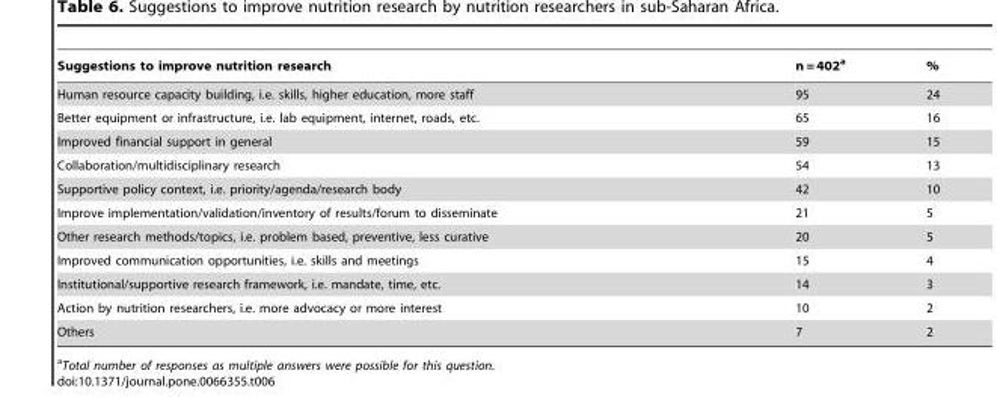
<table><thead><tr><td>Suggestions to improve nutrition research</td><td>n = 402<sup>a</sup></td><td>%</td></tr></thead><tbody><tr><td>Human resource capacity building, i.e. skills, higher education, more staff</td><td>95</td><td>24</td></tr><tr><td>Better equipment or infrastructure, i.e. lab equipment, internet, roads, etc.</td><td>65</td><td>16</td></tr><tr><td>Improved financial support in general</td><td>59</td><td>15</td></tr><tr><td>Collaboration/multidisciplinary research</td><td>54</td><td>13</td></tr><tr><td>Supportive policy context, i.e. priority/agenda/research body</td><td>42</td><td>10</td></tr><tr><td>Improve implementation/validation/inventory of results/forum to disseminate</td><td>21</td><td>5</td></tr><tr><td>Other research methods/topics, i.e. problem based, preventive, less curative</td><td>20</td><td>5</td></tr><tr><td>Improved communication opportunities, i.e. skills and meetings</td><td>15</td><td>4</td></tr><tr><td>Institutional/supportive research framework, i.e. mandate, time, etc.</td><td>14</td><td>3</td></tr><tr><td>Action by nutrition researchers, i.e. more advocacy or more interest</td><td>10</td><td>2</td></tr><tr><td>Others</td><td>7</td><td>2</td></tr></tbody></table>